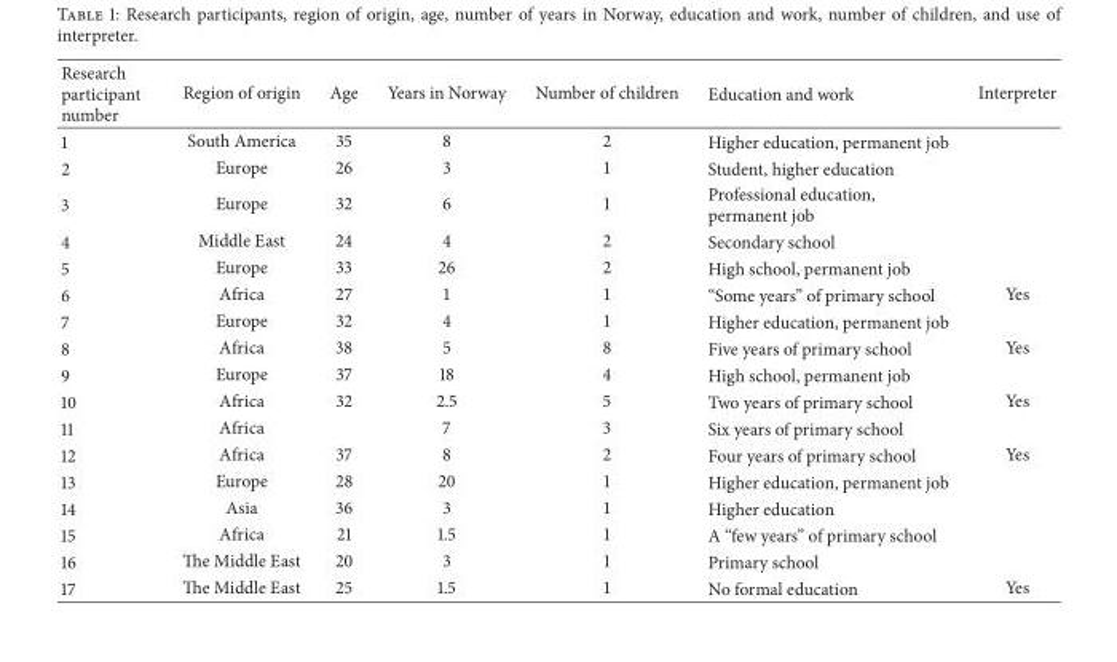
<table><thead><tr><td>Research participant number</td><td>Region of origin</td><td>Age</td><td>Years in Norway</td><td>Number of children</td><td>Education and work</td><td>Interpreter</td></tr></thead><tbody><tr><td>1</td><td>South America</td><td>35</td><td>8</td><td>2</td><td>Higher education, permanent job</td><td></td></tr><tr><td>2</td><td>Europe</td><td>26</td><td>3</td><td>1</td><td>Student, higher education</td><td></td></tr><tr><td>3</td><td>Europe</td><td>32</td><td>6</td><td>1</td><td>Professional education, permanent job</td><td></td></tr><tr><td>4</td><td>Middle East</td><td>24</td><td>4</td><td>2</td><td>Secondary school</td><td></td></tr><tr><td>5</td><td>Europe</td><td>33</td><td>26</td><td>2</td><td>High school, permanent job</td><td></td></tr><tr><td>6</td><td>Africa</td><td>27</td><td>1</td><td>1</td><td>“Some years” of primary school</td><td>Yes</td></tr><tr><td>7</td><td>Europe</td><td>32</td><td>4</td><td>1</td><td>Higher education, permanent job</td><td></td></tr><tr><td>8</td><td>Africa</td><td>38</td><td>5</td><td>8</td><td>Five years of primary school</td><td>Yes</td></tr><tr><td>9</td><td>Europe</td><td>37</td><td>18</td><td>4</td><td>High school, permanent job</td><td></td></tr><tr><td>10</td><td>Africa</td><td>32</td><td>2.5</td><td>5</td><td>Two years of primary school</td><td>Yes</td></tr><tr><td>11</td><td>Africa</td><td></td><td>7</td><td>3</td><td>Six years of primary school</td><td></td></tr><tr><td>12</td><td>Africa</td><td>37</td><td>8</td><td>2</td><td>Four years of primary school</td><td>Yes</td></tr><tr><td>13</td><td>Europe</td><td>28</td><td>20</td><td>1</td><td>Higher education, permanent job</td><td></td></tr><tr><td>14</td><td>Asia</td><td>36</td><td>3</td><td>1</td><td>Higher education</td><td></td></tr><tr><td>15</td><td>Africa</td><td>21</td><td>1.5</td><td>1</td><td>A “few years” of primary school</td><td></td></tr><tr><td>16</td><td>The Middle East</td><td>20</td><td>3</td><td>1</td><td>Primary school</td><td></td></tr><tr><td>17</td><td>The Middle East</td><td>25</td><td>1.5</td><td>1</td><td>No formal education</td><td>Yes</td></tr></tbody></table>